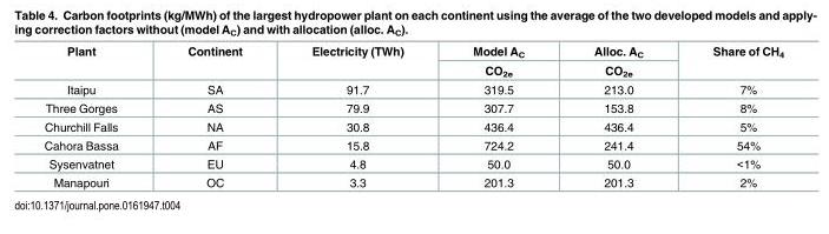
<table><thead><tr><td rowspan="2">Plant</td><td rowspan="2">Continent</td><td rowspan="2">Electricity (TWh)</td><td rowspan="2">Model A<sub>C</sub> CO<sub>2e</sub></td><td rowspan="2">Alloc. A<sub>C</sub> CO<sub>2e</sub></td><td rowspan="2">Share of CH<sub>4</sub></td></tr><tr></tr></thead><tbody><tr><td>Itaipu</td><td>SA</td><td>91.7</td><td>319.5</td><td>213.0</td><td>7%</td></tr><tr><td>Three Gorges</td><td>AS</td><td>79.9</td><td>307.7</td><td>153.8</td><td>8%</td></tr><tr><td>Churchill Falls</td><td>NA</td><td>30.8</td><td>436.4</td><td>436.4</td><td>5%</td></tr><tr><td>Cahora Bassa</td><td>AF</td><td>15.8</td><td>724.2</td><td>241.4</td><td>54%</td></tr><tr><td>Sysenvatnet</td><td>EU</td><td>4.8</td><td>50.0</td><td>50.0</td><td>&lt;1%</td></tr><tr><td>Manapouri</td><td>OC</td><td>3.3</td><td>201.3</td><td>201.3</td><td>2%</td></tr></tbody></table>